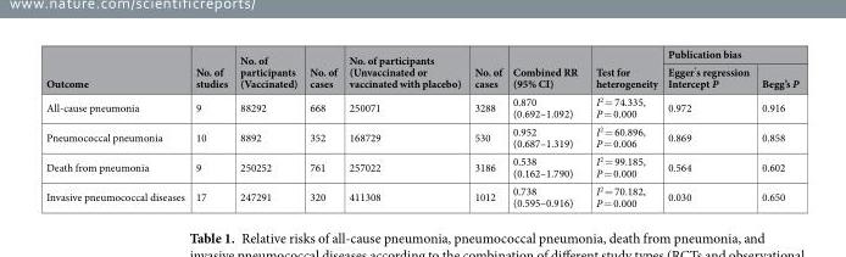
<table><thead><tr><td rowspan="2">Outcome</td><td rowspan="2">No. of studies</td><td rowspan="2">No. of participants (Vaccinated)</td><td rowspan="2">No. of cases</td><td rowspan="2">No. of participants (Unvaccinated or vaccinated with placebo)</td><td rowspan="2">No. of cases</td><td rowspan="2">Combined RR (95% CI)</td><td rowspan="2">Test for heterogeneity</td><td colspan="2">Publication bias</td></tr><tr><td>Egger<sup>’</sup>s regression Intercept P</td><td>Begg’s P</td></tr></thead><tbody><tr><td>All-cause pneumonia</td><td>9</td><td>88292</td><td>668</td><td>250071</td><td>3288</td><td>0.870 (0.692–1.092)</td><td>I<sup>2</sup> = 74.335, P = 0.000</td><td>0.972</td><td>0.916</td></tr><tr><td>Pneumococcal pneumonia</td><td>10</td><td>8892</td><td>352</td><td>168729</td><td>530</td><td>0.952 (0.687–1.319)</td><td>I<sup>2</sup> = 60.896, P = 0.006</td><td>0.869</td><td>0.858</td></tr><tr><td>Death from pneumonia</td><td>9</td><td>250252</td><td>761</td><td>257022</td><td>3186</td><td>0.538 (0.162–1.790)</td><td>I<sup>2</sup> = 99.185, P = 0.000</td><td>0.564</td><td>0.602</td></tr><tr><td>Invasive pneumococcal diseases</td><td>17</td><td>247291</td><td>320</td><td>411308</td><td>1012</td><td>0.738 (0.595–0.916)</td><td>I<sup>2</sup> = 70.182, P = 0.000</td><td>0.030</td><td>0.650</td></tr></tbody></table>